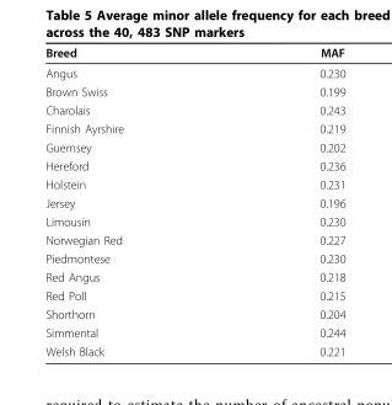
<table><thead><tr><td>Breed</td><td>MAF</td></tr></thead><tbody><tr><td>Angus</td><td>0.230</td></tr><tr><td>Brown Swiss</td><td>0.199</td></tr><tr><td>Charolais</td><td>0.243</td></tr><tr><td>Finnish Ayrshire</td><td>0.219</td></tr><tr><td>Guernsey</td><td>0.202</td></tr><tr><td>Hereford</td><td>0.236</td></tr><tr><td>Holstein</td><td>0.231</td></tr><tr><td>Jersey</td><td>0.196</td></tr><tr><td>Limousin</td><td>0.230</td></tr><tr><td>Norwegian Red</td><td>0.227</td></tr><tr><td>Piedmontese</td><td>0.230</td></tr><tr><td>Red Angus</td><td>0.218</td></tr><tr><td>Red Poll</td><td>0.215</td></tr><tr><td>Shorthorn</td><td>0.204</td></tr><tr><td>Simmental</td><td>0.244</td></tr><tr><td>Welsh Black</td><td>0.221</td></tr></tbody></table>